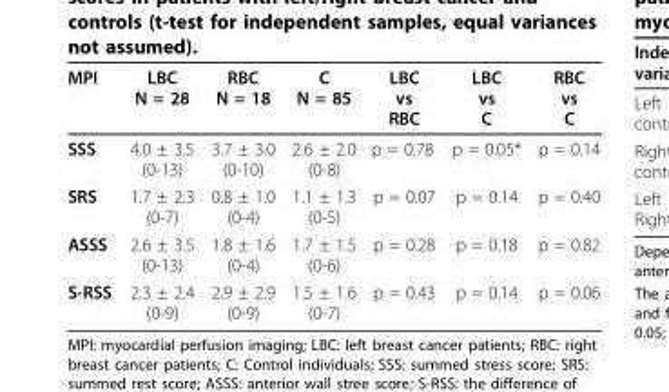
<table><thead><tr><td>MPI</td><td>LBC N = 28</td><td>RBC N = 18</td><td>C N = 85</td><td>LBC vs RBC</td><td>LBC vs C</td><td>RBC vs C</td></tr></thead><tbody><tr><td>SSS</td><td>4.0 ± 3.5 (0-13)</td><td>3.7 ± 3.0 (0-10)</td><td>2.6 ± 2.0 (0-8)</td><td>p = 0.78</td><td>p = 0.05*</td><td>p = 0.14</td></tr><tr><td>SRS</td><td>1.7 ± 2.3 (0-7)</td><td>0.8 ± 1.0 (0-4)</td><td>1.1 ± 1.3 (0-5)</td><td>p = 0.07</td><td>p = 0.14</td><td>p = 0.40</td></tr><tr><td>ASSS</td><td>2.6 ± 3.5 (0-13)</td><td>1.8 ± 1.6 (0-4)</td><td>1.7 ± 1.5 (0-6)</td><td>p = 0.28</td><td>p = 0.18</td><td>p = 0.82</td></tr><tr><td>S-RSS</td><td>2.3 ± 2.4 (0-9)</td><td>2.9 ± 2.9 (0-9)</td><td>1.5 ± 1.6 (0-7)</td><td>p = 0.43</td><td>p = 0.14</td><td>p = 0.06</td></tr></tbody></table>